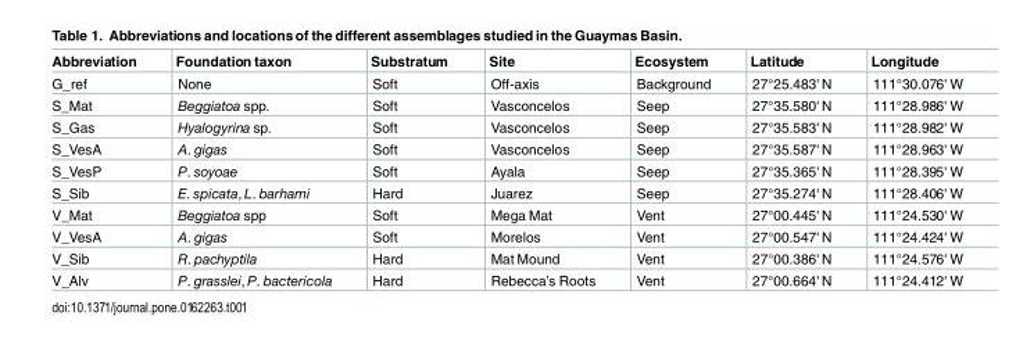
<table><thead><tr><td>Abbreviation</td><td>Foundation taxon</td><td>Substratum</td><td>Site</td><td>Ecosystem</td><td>Latitude</td><td>Longitude</td></tr></thead><tbody><tr><td>G_ref</td><td>None</td><td>Soft</td><td>Off-axis</td><td>Background</td><td>27°25.483&#x27; N</td><td>111°30.076&#x27; W</td></tr><tr><td>S_Mat</td><td>Beggiatoa spp.</td><td>Soft</td><td>Vasconcelos</td><td>Seep</td><td>27°35.580&#x27; N</td><td>111°28.986&#x27; W</td></tr><tr><td>S_Gas</td><td>Hyalogyrina sp.</td><td>Soft</td><td>Vasconcelos</td><td>Seep</td><td>27°35.583&#x27; N</td><td>111°28.982&#x27; W</td></tr><tr><td>S_VesA</td><td>A. gigas</td><td>Soft</td><td>Vasconcelos</td><td>Seep</td><td>27°35.587&#x27; N</td><td>111°28.963&#x27; W</td></tr><tr><td>S_VesP</td><td>P. soyoae</td><td>Soft</td><td>Ayala</td><td>Seep</td><td>27°35.365&#x27; N</td><td>111°28.395&#x27; W</td></tr><tr><td>S_Sib</td><td>E. spicata, L. barhami</td><td>Hard</td><td>Juarez</td><td>Seep</td><td>27°35.274&#x27; N</td><td>111°28.406&#x27; W</td></tr><tr><td>V_Mat</td><td>Beggiatoa spp</td><td>Soft</td><td>Mega Mat</td><td>Vent</td><td>27°00.445&#x27; N</td><td>111°24.530&#x27; W</td></tr><tr><td>V_VesA</td><td>A. gigas</td><td>Soft</td><td>Morelos</td><td>Vent</td><td>27°00.547&#x27; N</td><td>111°24.424&#x27; W</td></tr><tr><td>V_Sib</td><td>R. pachyptila</td><td>Hard</td><td>Mat Mound</td><td>Vent</td><td>27°00.386&#x27; N</td><td>111°24.576&#x27; W</td></tr><tr><td>V_Alv</td><td>P. grasslei, P. bactericola</td><td>Hard</td><td>Rebecca’s Roots</td><td>Vent</td><td>27°00.664&#x27; N</td><td>111°24.412&#x27; W</td></tr></tbody></table>